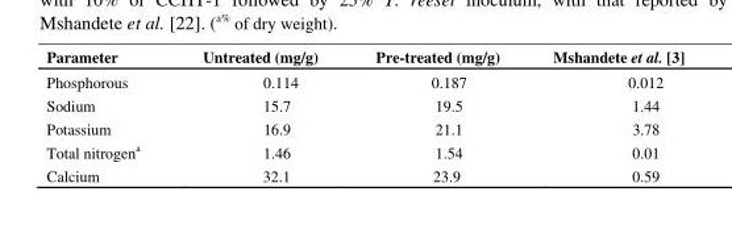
<table><thead><tr><td>Parameter</td><td>Untreated (mg/g)</td><td>Pre-treated (mg/g)</td><td>Mshandete et al. [3]</td></tr></thead><tbody><tr><td>Phosphorous</td><td>0.114</td><td>0.187</td><td>0.012</td></tr><tr><td>Sodium</td><td>15.7</td><td>19.5</td><td>1.44</td></tr><tr><td>Potassium</td><td>16.9</td><td>21.1</td><td>3.78</td></tr><tr><td>Total nitrogen<sup>a</sup></td><td>1.46</td><td>1.54</td><td>0.01</td></tr><tr><td>Calcium</td><td>32.1</td><td>23.9</td><td>0.59</td></tr></tbody></table>